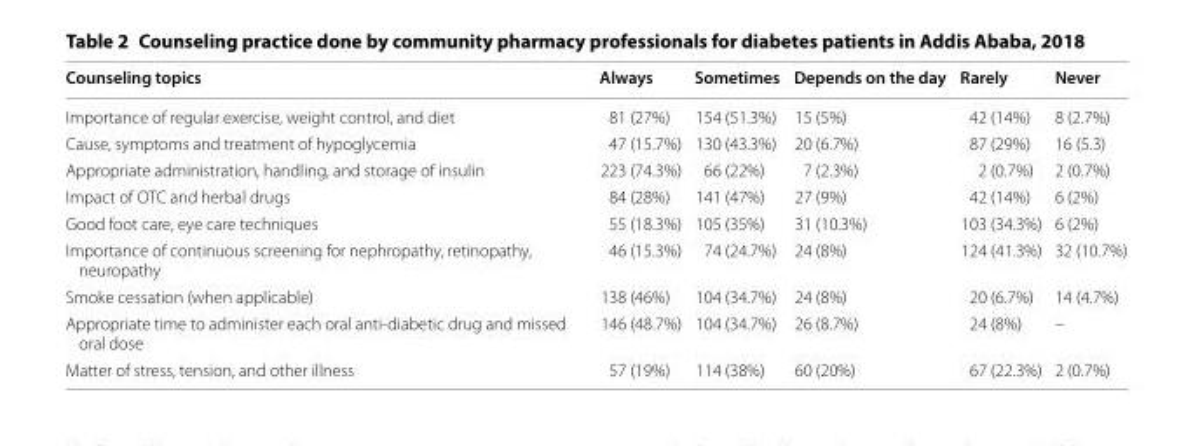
<table><thead><tr><td>Counseling topics</td><td>Always</td><td>Sometimes</td><td>Depends on the day</td><td>Rarely</td><td>Never</td></tr></thead><tbody><tr><td>Importance of regular exercise, weight control, and diet</td><td>81 (27%)</td><td>154 (51.3%)</td><td>15 (5%)</td><td>42 (14%)</td><td>8 (2.7%)</td></tr><tr><td>Cause, symptoms and treatment of hypoglycemia</td><td>47 (15.7%)</td><td>130 (43.3%)</td><td>20 (6.7%)</td><td>87 (29%)</td><td>16 (5.3)</td></tr><tr><td>Appropriate administration, handling, and storage of insulin</td><td>223 (74.3%)</td><td>66 (22%)</td><td>7 (2.3%)</td><td>2 (0.7%)</td><td>2 (0.7%)</td></tr><tr><td>Impact of OTC and herbal drugs</td><td>84 (28%)</td><td>141 (47%)</td><td>27 (9%)</td><td>42 (14%)</td><td>6 (2%)</td></tr><tr><td>Good foot care, eye care techniques</td><td>55 (18.3%)</td><td>105 (35%)</td><td>31 (10.3%)</td><td>103 (34.3%)</td><td>6 (2%)</td></tr><tr><td>Importance of continuous screening for nephropathy, retinopathy, neuropathy</td><td>46 (15.3%)</td><td>74 (24.7%)</td><td>24 (8%)</td><td>124 (41.3%)</td><td>32 (10.7%)</td></tr><tr><td>Smoke cessation (when applicable)</td><td>138 (46%)</td><td>104 (34.7%)</td><td>24 (8%)</td><td>20 (6.7%)</td><td>14 (4.7%)</td></tr><tr><td>Appropriate time to administer each oral anti-diabetic drug and missed oral dose</td><td>146 (48.7%)</td><td>104 (34.7%)</td><td>26 (8.7%)</td><td>24 (8%)</td><td>–</td></tr><tr><td>Matter of stress, tension, and other illness</td><td>57 (19%)</td><td>114 (38%)</td><td>60 (20%)</td><td>67 (22.3%)</td><td>2 (0.7%)</td></tr></tbody></table>